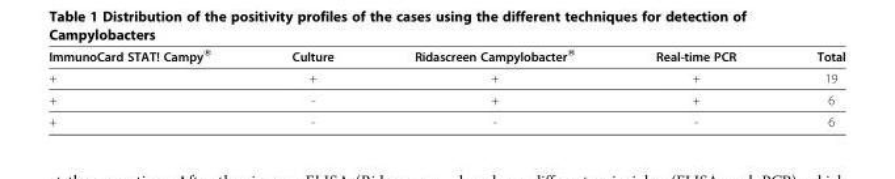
<table><thead><tr><td>ImmunoCard STAT! Campy®</td><td>Culture</td><td>Ridascreen Campylobacter®</td><td>Real-time PCR</td><td>Total</td></tr></thead><tbody><tr><td>+</td><td>+</td><td>+</td><td>+</td><td>19</td></tr><tr><td>+</td><td>-</td><td>+</td><td>+</td><td>6</td></tr><tr><td>+</td><td>-</td><td>-</td><td>-</td><td>6</td></tr></tbody></table>